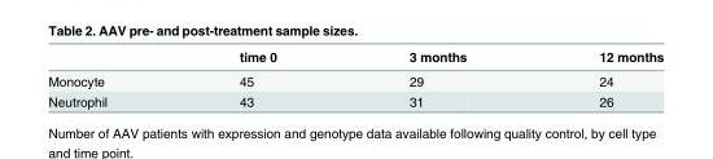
<table><thead><tr><td></td><td>time 0</td><td>3 months</td><td>12 months</td></tr></thead><tbody><tr><td>Monocyte</td><td>45</td><td>29</td><td>24</td></tr><tr><td>Neutrophil</td><td>43</td><td>31</td><td>26</td></tr></tbody></table>